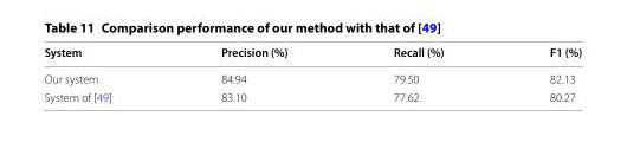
<table><thead><tr><td>System</td><td>Precision (%)</td><td>Recall (%)</td><td>F1 (%)</td></tr></thead><tbody><tr><td>Our system</td><td>84.94</td><td>79.50</td><td>82.13</td></tr><tr><td>System of [49]</td><td>83.10</td><td>77.62</td><td>80.27</td></tr></tbody></table>